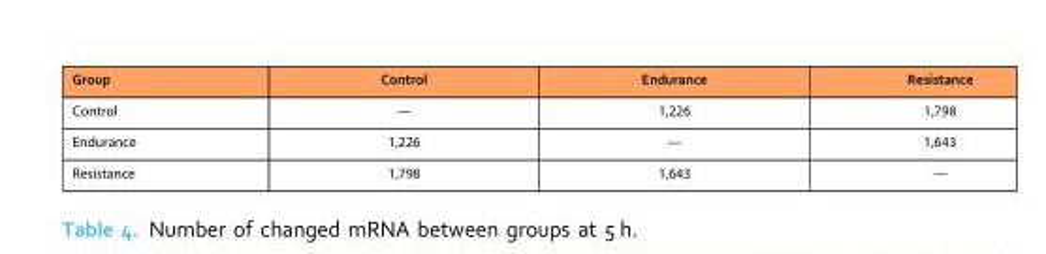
<table><thead><tr><td>Group</td><td>Control</td><td>Endurance</td><td>Resistance</td></tr></thead><tbody><tr><td>Control</td><td>—</td><td>1,226</td><td>1,798</td></tr><tr><td>Endurance</td><td>1,226</td><td>—</td><td>1,643</td></tr><tr><td>Resistance</td><td>1,798</td><td>1,643</td><td>—</td></tr></tbody></table>